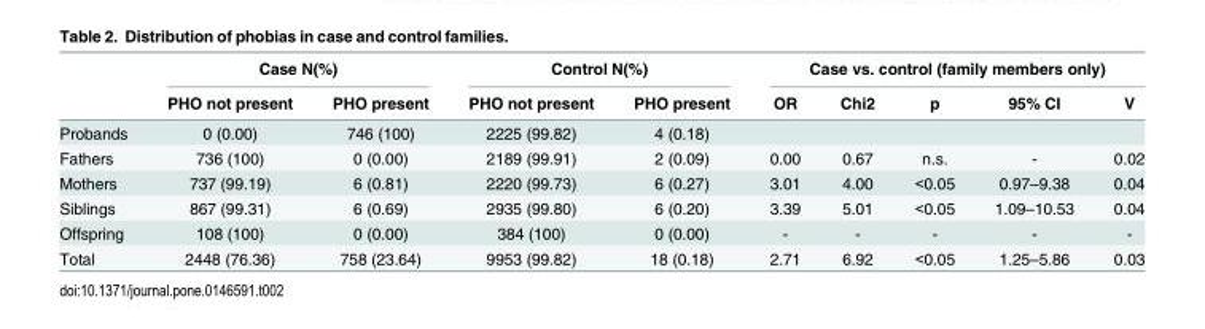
<table><thead><tr><td rowspan="2"></td><td colspan="2">Case N(%)</td><td colspan="2">Control N(%)</td><td colspan="5">Case vs. control (family members only)</td></tr><tr><td>PHO not present</td><td>PHO present</td><td>PHO not present</td><td>PHO present</td><td>OR</td><td>Chi2</td><td>p</td><td>95% CI</td><td>V</td></tr></thead><tbody><tr><td>Probands</td><td>0 (0.00)</td><td>746 (100)</td><td>2225 (99.82)</td><td>4 (0.18)</td><td></td><td></td><td></td><td></td><td></td></tr><tr><td>Fathers</td><td>736 (100)</td><td>0 (0.00)</td><td>2189 (99.91)</td><td>2 (0.09)</td><td>0.00</td><td>0.67</td><td>n.s.</td><td>-</td><td>0.02</td></tr><tr><td>Mothers</td><td>737 (99.19)</td><td>6 (0.81)</td><td>2220 (99.73)</td><td>6 (0.27)</td><td>3.01</td><td>4.00</td><td>&lt;0.05</td><td>0.97–9.38</td><td>0.04</td></tr><tr><td>Siblings</td><td>867 (99.31)</td><td>6 (0.69)</td><td>2935 (99.80)</td><td>6 (0.20)</td><td>3.39</td><td>5.01</td><td>&lt;0.05</td><td>1.09–10.53</td><td>0.04</td></tr><tr><td>Offspring</td><td>108 (100)</td><td>0 (0.00)</td><td>384 (100)</td><td>0 (0.00)</td><td>-</td><td>-</td><td>-</td><td>-</td><td>-</td></tr><tr><td>Total</td><td>2448 (76.36)</td><td>758 (23.64)</td><td>9953 (99.82)</td><td>18 (0.18)</td><td>2.71</td><td>6.92</td><td>&lt;0.05</td><td>1.25–5.86</td><td>0.03</td></tr></tbody></table>